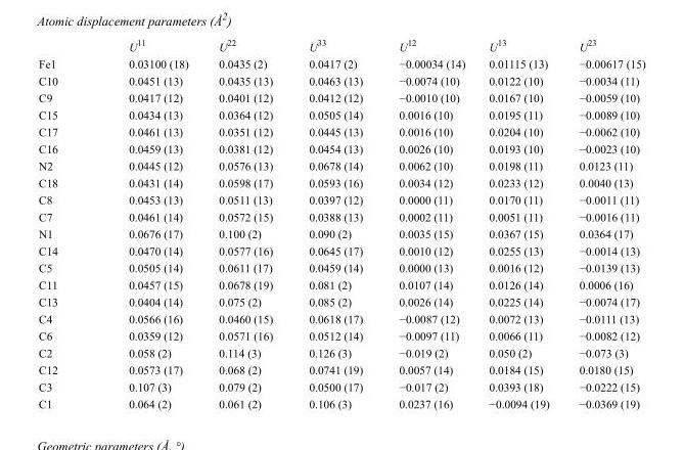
<table><thead><tr><td></td><td>U<sup>11</sup></td><td>U<sup>22</sup></td><td>U<sup>33</sup></td><td>U<sup>12</sup></td><td>U<sup>13</sup></td><td>U<sup>23</sup></td></tr></thead><tbody><tr><td>Fe1</td><td>0.03100 (18)</td><td>0.0435 (2)</td><td>0.0417 (2)</td><td>−0.00034 (14)</td><td>0.01115 (13)</td><td>−0.00617 (15)</td></tr><tr><td>C10</td><td>0.0451 (13)</td><td>0.0435 (13)</td><td>0.0463 (13)</td><td>−0.0074 (10)</td><td>0.0122 (10)</td><td>−0.0034 (11)</td></tr><tr><td>C9</td><td>0.0417 (12)</td><td>0.0401 (12)</td><td>0.0412 (12)</td><td>−0.0010 (10)</td><td>0.0167 (10)</td><td>−0.0059 (10)</td></tr><tr><td>C15</td><td>0.0434 (13)</td><td>0.0364 (12)</td><td>0.0505 (14)</td><td>0.0016 (10)</td><td>0.0195 (11)</td><td>−0.0089 (10)</td></tr><tr><td>C17</td><td>0.0461 (13)</td><td>0.0351 (12)</td><td>0.0445 (13)</td><td>0.0016 (10)</td><td>0.0204 (10)</td><td>−0.0062 (10)</td></tr><tr><td>C16</td><td>0.0459 (13)</td><td>0.0381 (12)</td><td>0.0454 (13)</td><td>0.0026 (10)</td><td>0.0193 (10)</td><td>−0.0023 (10)</td></tr><tr><td>N2</td><td>0.0445 (12)</td><td>0.0576 (13)</td><td>0.0678 (14)</td><td>0.0062 (10)</td><td>0.0198 (11)</td><td>0.0123 (11)</td></tr><tr><td>C18</td><td>0.0431 (14)</td><td>0.0598 (17)</td><td>0.0593 (16)</td><td>0.0034 (12)</td><td>0.0233 (12)</td><td>0.0040 (13)</td></tr><tr><td>C8</td><td>0.0453 (13)</td><td>0.0511 (13)</td><td>0.0397 (12)</td><td>0.0000 (11)</td><td>0.0170 (11)</td><td>−0.0011 (11)</td></tr><tr><td>C7</td><td>0.0461 (14)</td><td>0.0572 (15)</td><td>0.0388 (13)</td><td>0.0002 (11)</td><td>0.0051 (11)</td><td>−0.0016 (11)</td></tr><tr><td>N1</td><td>0.0676 (17)</td><td>0.100 (2)</td><td>0.090 (2)</td><td>0.0035 (15)</td><td>0.0367 (15)</td><td>0.0364 (17)</td></tr><tr><td>C14</td><td>0.0470 (14)</td><td>0.0577 (16)</td><td>0.0645 (17)</td><td>0.0010 (12)</td><td>0.0255 (13)</td><td>−0.0014 (13)</td></tr><tr><td>C5</td><td>0.0505 (14)</td><td>0.0611 (17)</td><td>0.0459 (14)</td><td>0.0000 (13)</td><td>0.0016 (12)</td><td>−0.0139 (13)</td></tr><tr><td>C11</td><td>0.0457 (15)</td><td>0.0678 (19)</td><td>0.081 (2)</td><td>0.0107 (14)</td><td>0.0126 (14)</td><td>0.0006 (16)</td></tr><tr><td>C13</td><td>0.0404 (14)</td><td>0.075 (2)</td><td>0.085 (2)</td><td>0.0026 (14)</td><td>0.0225 (14)</td><td>−0.0074 (17)</td></tr><tr><td>C4</td><td>0.0566 (16)</td><td>0.0460 (15)</td><td>0.0618 (17)</td><td>−0.0087 (12)</td><td>0.0072 (13)</td><td>−0.0111 (13)</td></tr><tr><td>C6</td><td>0.0359 (12)</td><td>0.0571 (16)</td><td>0.0512 (14)</td><td>−0.0097 (11)</td><td>0.0066 (11)</td><td>−0.0082 (12)</td></tr><tr><td>C2</td><td>0.058 (2)</td><td>0.114 (3)</td><td>0.126 (3)</td><td>−0.019 (2)</td><td>0.050 (2)</td><td>−0.073 (3)</td></tr><tr><td>C12</td><td>0.0573 (17)</td><td>0.068 (2)</td><td>0.0741 (19)</td><td>0.0057 (14)</td><td>0.0184 (15)</td><td>0.0180 (15)</td></tr><tr><td>C3</td><td>0.107 (3)</td><td>0.079 (2)</td><td>0.0500 (17)</td><td>−0.017 (2)</td><td>0.0393 (18)</td><td>−0.0222 (15)</td></tr><tr><td>C1</td><td>0.064 (2)</td><td>0.061 (2)</td><td>0.106 (3)</td><td>0.0237 (16)</td><td>−0.0094 (19)</td><td>−0.0369 (19)</td></tr></tbody></table>